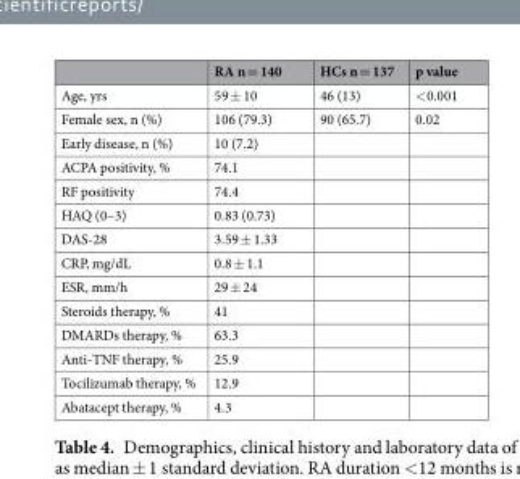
<table><thead><tr><td></td><td>RA n = 140</td><td>HCs n = 137</td><td>p value</td></tr></thead><tbody><tr><td>Age, yrs</td><td>59 ± 10</td><td>46 (13)</td><td>&lt;0.001</td></tr><tr><td>Female sex, n (%)</td><td>106 (79.3)</td><td>90 (65.7)</td><td>0.02</td></tr><tr><td>Early disease, n (%)</td><td>10 (7.2)</td><td></td><td></td></tr><tr><td>ACPA positivity, %</td><td>74.1</td><td></td><td></td></tr><tr><td>RF positivity</td><td>74.4</td><td></td><td></td></tr><tr><td>HAQ (0–3)</td><td>0.83 (0.73)</td><td></td><td></td></tr><tr><td>DAS-28</td><td>3.59 ± 1.33</td><td></td><td></td></tr><tr><td>CRP, mg/dL</td><td>0.8 ± 1.1</td><td></td><td></td></tr><tr><td>ESR, mm/h</td><td>29 ± 24</td><td></td><td></td></tr><tr><td>Steroids therapy, %</td><td>41</td><td></td><td></td></tr><tr><td>DMARDs therapy, %</td><td>63.3</td><td></td><td></td></tr><tr><td>Anti-TNF therapy, %</td><td>25.9</td><td></td><td></td></tr><tr><td>Tocilizumab therapy, %</td><td>12.9</td><td></td><td></td></tr><tr><td>Abatacept therapy, %</td><td>4.3</td><td></td><td></td></tr></tbody></table>